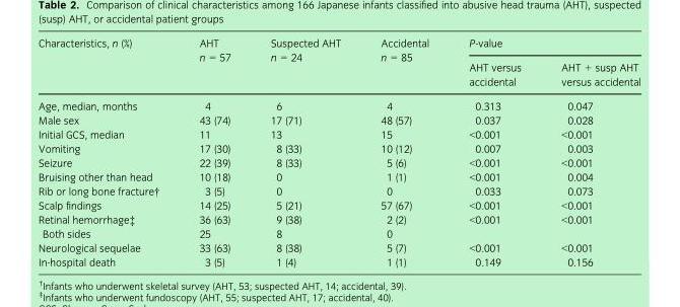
<table><thead><tr><td rowspan="2">Characteristics, n (%)</td><td rowspan="2">AHT n = 57</td><td rowspan="2">Suspected AHT n = 24</td><td rowspan="2">Accidental n = 85</td><td colspan="2">P-value</td></tr><tr><td>AHT versus accidental</td><td>AHT + susp AHT versus accidental</td></tr></thead><tbody><tr><td>Age, median, months</td><td>4</td><td>6</td><td>4</td><td>0.313</td><td>0.047</td></tr><tr><td>Male sex</td><td>43 (74)</td><td>17 (71)</td><td>48 (57)</td><td>0.037</td><td>0.028</td></tr><tr><td>Initial GCS, median</td><td>11</td><td>13</td><td>15</td><td>&lt;0.001</td><td>&lt;0.001</td></tr><tr><td>Vomiting</td><td>17 (30)</td><td>8 (33)</td><td>10 (12)</td><td>0.007</td><td>0.003</td></tr><tr><td>Seizure</td><td>22 (39)</td><td>8 (33)</td><td>5 (6)</td><td>&lt;0.001</td><td>&lt;0.001</td></tr><tr><td>Bruising other than head</td><td>10 (18)</td><td>0</td><td>1 (1)</td><td>&lt;0.001</td><td>0.004</td></tr><tr><td>Rib or long bone fracture†</td><td>3 (5)</td><td>0</td><td>0</td><td>0.033</td><td>0.073</td></tr><tr><td>Scalp findings</td><td>14 (25)</td><td>5 (21)</td><td>57 (67)</td><td>&lt;0.001</td><td>&lt;0.001</td></tr><tr><td>Retinal hemorrhage‡</td><td>36 (63)</td><td>9 (38)</td><td>2 (2)</td><td>&lt;0.001</td><td>&lt;0.001</td></tr><tr><td>Both sides</td><td>25</td><td>8</td><td>0</td><td></td><td></td></tr><tr><td>Neurological sequelae</td><td>33 (63)</td><td>8 (38)</td><td>5 (7)</td><td>&lt;0.001</td><td>&lt;0.001</td></tr><tr><td>In-hospital death</td><td>3 (5)</td><td>1 (4)</td><td>1 (1)</td><td>0.149</td><td>0.156</td></tr></tbody></table>